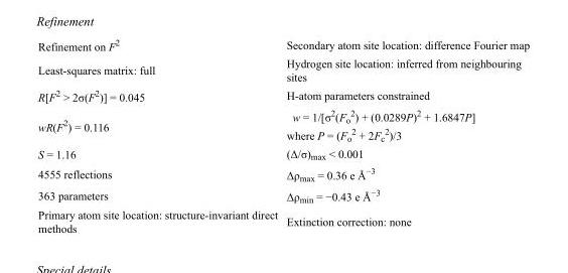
<table><tbody><tr><td>Refinement on F<sup>2</sup></td><td>Secondary atom site location: difference Fourier map</td></tr><tr><td>Least-squares matrix: full</td><td>Hydrogen site location: inferred from neighbouring sites</td></tr><tr><td>R[F<sup>2</sup> &gt; 2σ(F<sup>2</sup>)] = 0.045</td><td>H-atom parameters constrained</td></tr><tr><td>wR(F<sup>2</sup>) = 0.116</td><td>w = 1/[σ<sup>2</sup>(F<sub>o</sub> <sup>2</sup>) + (0.0289P)<sup>2</sup> + 1.6847P] where P = (F<sub>o</sub> <sup>2</sup> + 2F<sub>c</sub> <sup>2</sup>)/3</td></tr><tr><td>S = 1.16</td><td>(Δ/σ)<sub>max</sub> &lt; 0.001</td></tr><tr><td>4555 reflections</td><td>Δρ<sub>max</sub> = 0.36 e Å<sup>−3</sup></td></tr><tr><td>363 parameters</td><td>Δρ<sub>min</sub> = −0.43 e Å<sup>−3</sup></td></tr><tr><td>Primary atom site location: structure-invariant direct methods</td><td>Extinction correction: none</td></tr></tbody></table>